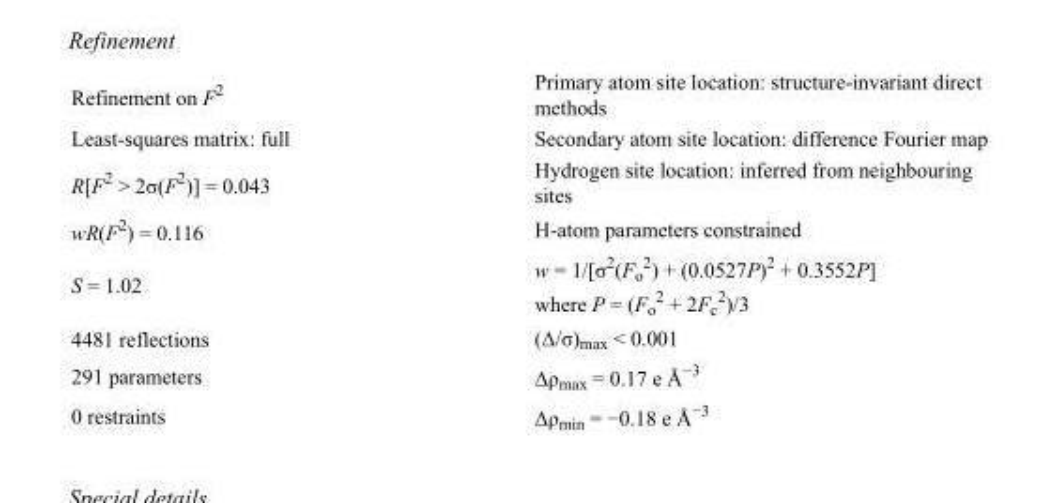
<table><tbody><tr><td>Refinement on F<sup>2</sup></td><td>Primary atom site location: structure-invariant direct methods</td></tr><tr><td>Least-squares matrix: full</td><td>Secondary atom site location: difference Fourier map</td></tr><tr><td>R[F<sup>2</sup> &gt; 2σ(F<sup>2</sup>)] = 0.043</td><td>Hydrogen site location: inferred from neighbouring sites</td></tr><tr><td>wR(F<sup>2</sup>) = 0.116</td><td>H-atom parameters constrained</td></tr><tr><td>S = 1.02</td><td>w = 1/[σ<sup>2</sup>(F<sub>o</sub> <sup>2</sup>) + (0.0527P)<sup>2</sup> + 0.3552P] where P = (F<sub>o</sub> <sup>2</sup> + 2F<sub>c</sub> <sup>2</sup>)/3</td></tr><tr><td>4481 reflections</td><td>(Δ/σ)<sub>max</sub> &lt; 0.001</td></tr><tr><td>291 parameters</td><td>Δρ<sub>max</sub> = 0.17 e Å<sup>−3</sup></td></tr><tr><td>0 restraints</td><td>Δρ<sub>min</sub> = −0.18 e Å<sup>−3</sup></td></tr></tbody></table>